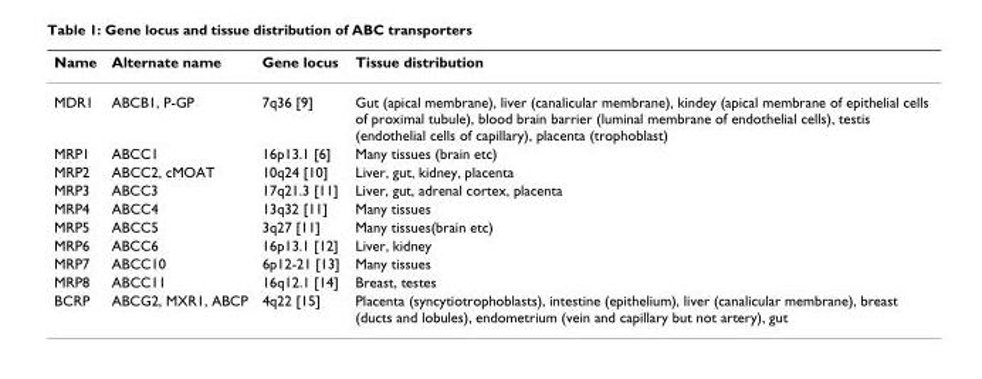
<table><thead><tr><td>Name</td><td>Alternate name</td><td>Gene locus</td><td>Tissue distribution</td></tr></thead><tbody><tr><td>MDR1</td><td>ABCB1, P-GP</td><td>7q36 [9]</td><td>Gut (apical membrane), liver (canalicular membrane), kindey (apical membrane of epithelial cells of proximal tubule), blood brain barrier (luminal membrane of endothelial cells), testis (endothelial cells of capillary), placenta (trophoblast)</td></tr><tr><td>MRP1</td><td>ABCC1</td><td>16p13.1 [6]</td><td>Many tissues (brain etc)</td></tr><tr><td>MRP2</td><td>ABCC2, cMOAT</td><td>10q24 [10]</td><td>Liver, gut, kidney, placenta</td></tr><tr><td>MRP3</td><td>ABCC3</td><td>17q21.3 [11]</td><td>Liver, gut, adrenal cortex, placenta</td></tr><tr><td>MRP4</td><td>ABCC4</td><td>13q32 [11]</td><td>Many tissues</td></tr><tr><td>MRP5</td><td>ABCC5</td><td>3q27 [11]</td><td>Many tissues(brain etc)</td></tr><tr><td>MRP6</td><td>ABCC6</td><td>16p13.1 [12]</td><td>Liver, kidney</td></tr><tr><td>MRP7</td><td>ABCC10</td><td>6p12-21 [13]</td><td>Many tissues</td></tr><tr><td>MRP8</td><td>ABCC11</td><td>16q12.1 [14]</td><td>Breast, testes</td></tr><tr><td>BCRP</td><td>ABCG2, MXR1, ABCP</td><td>4q22 [15]</td><td>Placenta (syncytiotrophoblasts), intestine (epithelium), liver (canalicular membrane), breast (ducts and lobules), endometrium (vein and capillary but not artery), gut</td></tr></tbody></table>